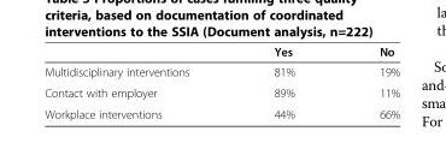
<table><thead><tr><td></td><td>Yes</td><td>No</td></tr></thead><tbody><tr><td>Multidisciplinary interventions</td><td>81%</td><td>19%</td></tr><tr><td>Contact with employer</td><td>89%</td><td>11%</td></tr><tr><td>Workplace interventions</td><td>44%</td><td>66%</td></tr></tbody></table>